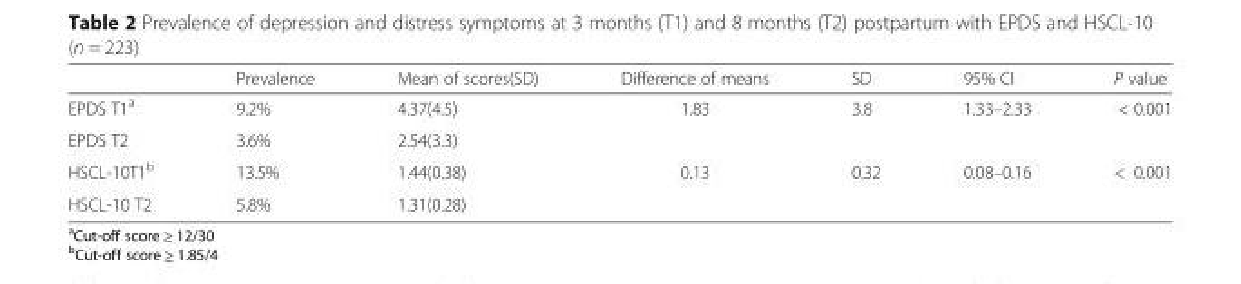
<table><thead><tr><td></td><td>Prevalence</td><td>Mean of scores(SD)</td><td>Difference of means</td><td>SD</td><td>95% CI</td><td>P value</td></tr></thead><tbody><tr><td>EPDS T1<sup>a</sup></td><td>9.2%</td><td>4.37(4.5)</td><td>1.83</td><td>3.8</td><td>1.33–2.33</td><td>&lt; 0.001</td></tr><tr><td>EPDS T2</td><td>3.6%</td><td>2.54(3.3)</td><td></td><td></td><td></td><td></td></tr><tr><td>HSCL-10T1<sup>b</sup></td><td>13.5%</td><td>1.44(0.38)</td><td>0.13</td><td>0.32</td><td>0.08–0.16</td><td>&lt; 0.001</td></tr><tr><td>HSCL-10 T2</td><td>5.8%</td><td>1.31(0.28)</td><td></td><td></td><td></td><td></td></tr></tbody></table>